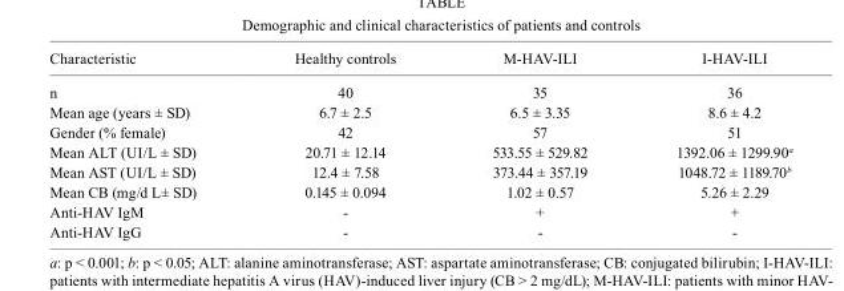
<table><thead><tr><td>Characteristic</td><td>Healthy controls</td><td>M-HAV-ILI</td><td>I-HAV-ILI</td></tr></thead><tbody><tr><td>n</td><td>40</td><td>35</td><td>36</td></tr><tr><td>Mean age (years ± SD)</td><td>6.7 ± 2.5</td><td>6.5 ± 3.35</td><td>8.6 ± 4.2</td></tr><tr><td>Gender (% female)</td><td>42</td><td>57</td><td>51</td></tr><tr><td>Mean ALT (UI/L ± SD)</td><td>20.71 ± 12.14</td><td>533.55 ± 529.82</td><td>1392.06 ± 1299.90<sup>a</sup></td></tr><tr><td>Mean AST (UI/L ± SD)</td><td>12.4 ± 7.58</td><td>373.44 ± 357.19</td><td>1048.72 ± 1189.70<sup>b</sup></td></tr><tr><td>Mean CB (mg/d L± SD)</td><td>0.145 ± 0.094</td><td>1.02 ± 0.57</td><td>5.26 ± 2.29</td></tr><tr><td>Anti-HAV IgM</td><td>-</td><td>+</td><td>+</td></tr><tr><td>Anti-HAV IgG</td><td>-</td><td>-</td><td>-</td></tr></tbody></table>